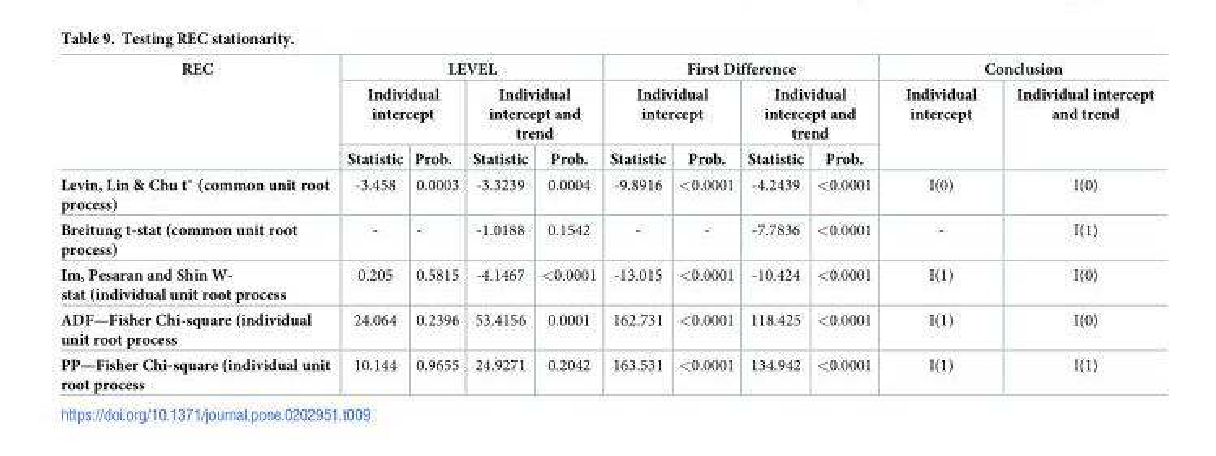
<table><thead><tr><td rowspan="3">REC</td><td colspan="4">LEVEL</td><td colspan="4">First Difference</td><td colspan="2">Conclusion</td></tr><tr><td colspan="2">Individual intercept</td><td colspan="2">Individual intercept and trend</td><td colspan="2">Individual intercept</td><td colspan="2">Individual intercept and trend</td><td rowspan="2">Individual intercept</td><td rowspan="2">Individual intercept and trend</td></tr><tr><td>Statistic</td><td>Prob.</td><td>Statistic</td><td>Prob.</td><td>Statistic</td><td>Prob.</td><td>Statistic</td><td>Prob.</td></tr></thead><tbody><tr><td>Levin, Lin &amp; Chu t* (common unit root process)</td><td>-3.458</td><td>0.0003</td><td>-3.3239</td><td>0.0004</td><td>-9.8916</td><td>&lt;0.0001</td><td>-4.2439</td><td>&lt;0.0001</td><td>I(0)</td><td>I(0)</td></tr><tr><td>Breitung t-stat (common unit root process)</td><td>-</td><td>-</td><td>-1.0188</td><td>0.1542</td><td>-</td><td>-</td><td>-7.7836</td><td>&lt;0.0001</td><td>-</td><td>I(1)</td></tr><tr><td>Im, Pesaran and Shin W- stat (individual unit root process</td><td>0.205</td><td>0.5815</td><td>-4.1467</td><td>&lt;0.0001</td><td>-13.015</td><td>&lt;0.0001</td><td>-10.424</td><td>&lt;0.0001</td><td>I(1)</td><td>I(0)</td></tr><tr><td>ADF—Fisher Chi-square (individual unit root process</td><td>24.064</td><td>0.2396</td><td>53.4156</td><td>0.0001</td><td>162.731</td><td>&lt;0.0001</td><td>118.425</td><td>&lt;0.0001</td><td>I(1)</td><td>I(0)</td></tr><tr><td>PP—Fisher Chi-square (individual unit root process</td><td>10.144</td><td>0.9655</td><td>24.9271</td><td>0.2042</td><td>163.531</td><td>&lt;0.0001</td><td>134.942</td><td>&lt;0.0001</td><td>I(1)</td><td>I(1)</td></tr></tbody></table>